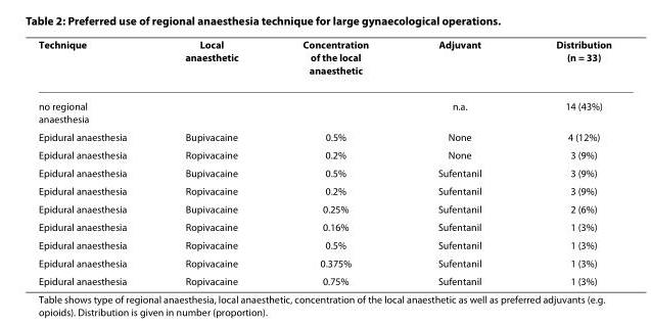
<table><thead><tr><td>Technique</td><td>Local anaesthetic</td><td>Concentration of the local anaesthetic</td><td>Adjuvant</td><td>Distribution (n = 33)</td></tr></thead><tbody><tr><td>no regional anaesthesia</td><td></td><td></td><td>n.a.</td><td>14 (43%)</td></tr><tr><td>Epidural anaesthesia</td><td>Bupivacaine</td><td>0.5%</td><td>None</td><td>4 (12%)</td></tr><tr><td>Epidural anaesthesia</td><td>Ropivacaine</td><td>0.2%</td><td>None</td><td>3 (9%)</td></tr><tr><td>Epidural anaesthesia</td><td>Bupivacaine</td><td>0.5%</td><td>Sufentanil</td><td>3 (9%)</td></tr><tr><td>Epidural anaesthesia</td><td>Ropivacaine</td><td>0.2%</td><td>Sufentanil</td><td>3 (9%)</td></tr><tr><td>Epidural anaesthesia</td><td>Bupivacaine</td><td>0.25%</td><td>Sufentanil</td><td>2 (6%)</td></tr><tr><td>Epidural anaesthesia</td><td>Ropivacaine</td><td>0.16%</td><td>Sufentanil</td><td>1 (3%)</td></tr><tr><td>Epidural anaesthesia</td><td>Ropivacaine</td><td>0.5%</td><td>Sufentanil</td><td>1 (3%)</td></tr><tr><td>Epidural anaesthesia</td><td>Ropivacaine</td><td>0.375%</td><td>Sufentanil</td><td>1 (3%)</td></tr><tr><td>Epidural anaesthesia</td><td>Ropivacaine</td><td>0.75%</td><td>Sufentanil</td><td>1 (3%)</td></tr></tbody></table>